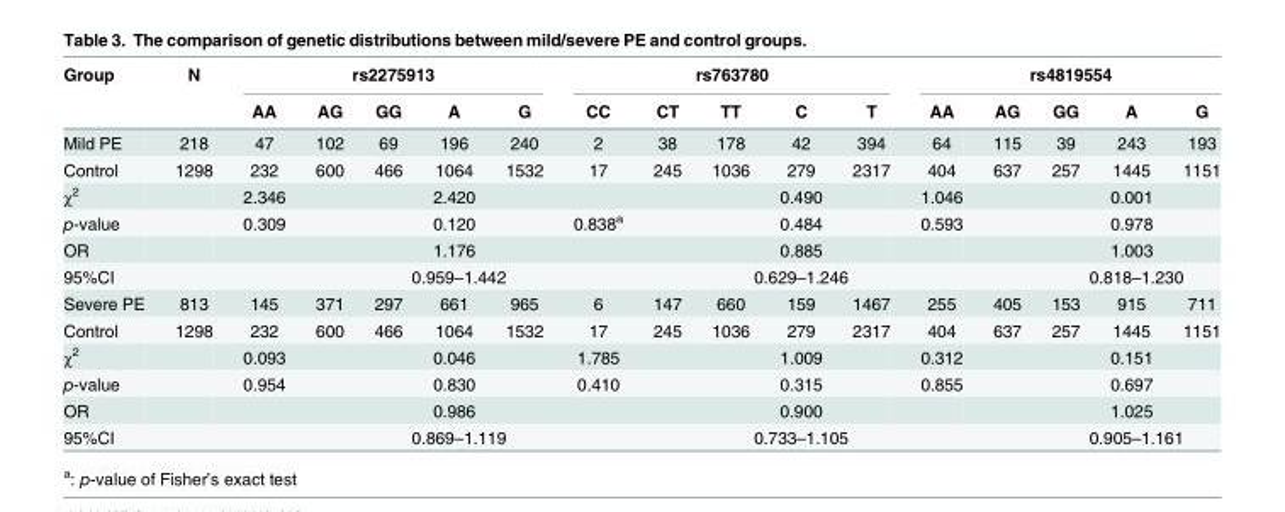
<table><thead><tr><td rowspan="2">Group</td><td rowspan="2">N</td><td colspan="5">rs2275913</td><td colspan="5">rs763780</td><td colspan="5">rs4819554</td></tr><tr><td>AA</td><td>AG</td><td>GG</td><td>A</td><td>G</td><td>CC</td><td>CT</td><td>TT</td><td>C</td><td>T</td><td>AA</td><td>AG</td><td>GG</td><td>A</td><td>G</td></tr></thead><tbody><tr><td>Mild PE</td><td>218</td><td>47</td><td>102</td><td>69</td><td>196</td><td>240</td><td>2</td><td>38</td><td>178</td><td>42</td><td>394</td><td>64</td><td>115</td><td>39</td><td>243</td><td>193</td></tr><tr><td>Control</td><td>1298</td><td>232</td><td>600</td><td>466</td><td>1064</td><td>1532</td><td>17</td><td>245</td><td>1036</td><td>279</td><td>2317</td><td>404</td><td>637</td><td>257</td><td>1445</td><td>1151</td></tr><tr><td>χ<sup>2</sup></td><td></td><td>2.346</td><td></td><td></td><td>2.420</td><td></td><td></td><td></td><td></td><td>0.490</td><td></td><td>1.046</td><td></td><td></td><td>0.001</td><td></td></tr><tr><td>p-value</td><td></td><td>0.309</td><td></td><td></td><td>0.120</td><td></td><td>0.838<sup>a</sup></td><td></td><td></td><td>0.484</td><td></td><td>0.593</td><td></td><td></td><td>0.978</td><td></td></tr><tr><td>OR</td><td></td><td></td><td></td><td></td><td>1.176</td><td></td><td></td><td></td><td></td><td>0.885</td><td></td><td></td><td></td><td></td><td>1.003</td><td></td></tr><tr><td>95%CI</td><td></td><td></td><td></td><td colspan="3">0.959–1.442</td><td></td><td></td><td colspan="3">0.629–1.246</td><td></td><td></td><td colspan="3">0.818–1.230</td></tr><tr><td>Severe PE</td><td>813</td><td>145</td><td>371</td><td>297</td><td>661</td><td>965</td><td>6</td><td>147</td><td>660</td><td>159</td><td>1467</td><td>255</td><td>405</td><td>153</td><td>915</td><td>711</td></tr><tr><td>Control</td><td>1298</td><td>232</td><td>600</td><td>466</td><td>1064</td><td>1532</td><td>17</td><td>245</td><td>1036</td><td>279</td><td>2317</td><td>404</td><td>637</td><td>257</td><td>1445</td><td>1151</td></tr><tr><td>χ<sup>2</sup></td><td></td><td>0.093</td><td></td><td></td><td>0.046</td><td></td><td>1.785</td><td></td><td></td><td>1.009</td><td></td><td>0.312</td><td></td><td></td><td>0.151</td><td></td></tr><tr><td>p-value</td><td></td><td>0.954</td><td></td><td></td><td>0.830</td><td></td><td>0.410</td><td></td><td></td><td>0.315</td><td></td><td>0.855</td><td></td><td></td><td>0.697</td><td></td></tr><tr><td>OR</td><td></td><td></td><td></td><td></td><td>0.986</td><td></td><td></td><td></td><td></td><td>0.900</td><td></td><td></td><td></td><td></td><td>1.025</td><td></td></tr><tr><td>95%CI</td><td></td><td></td><td></td><td colspan="3">0.869–1.119</td><td></td><td></td><td colspan="3">0.733–1.105</td><td></td><td></td><td colspan="3">0.905–1.161</td></tr></tbody></table>